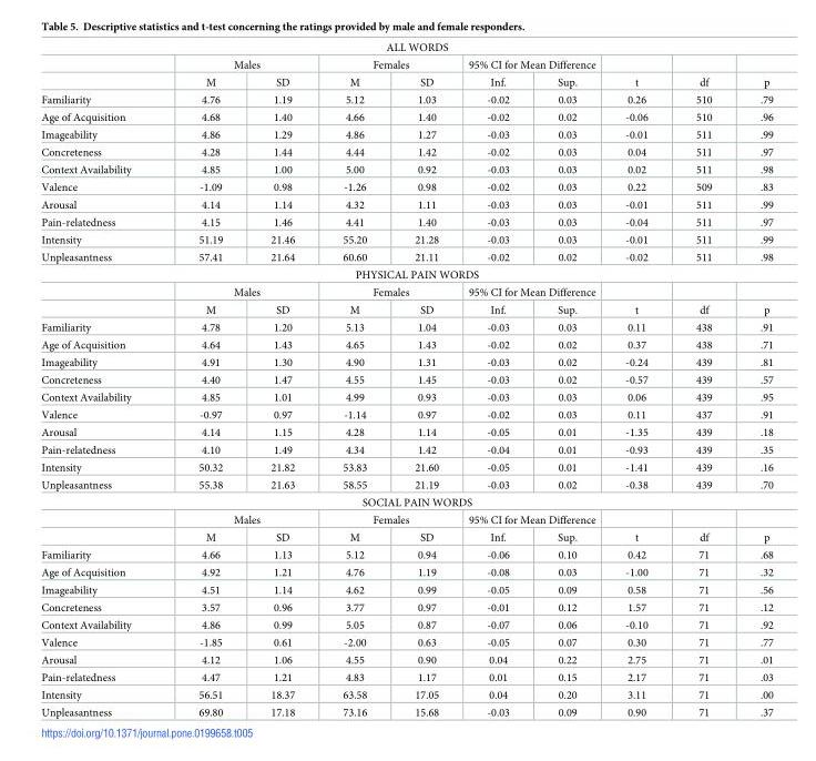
<table><tbody><tr><td colspan="10">ALL WORDS</td></tr><tr><td></td><td colspan="2">Males</td><td colspan="2">Females</td><td colspan="2">95% CI for Mean Difference</td><td></td><td></td><td></td></tr><tr><td></td><td>M</td><td>SD</td><td>M</td><td>SD</td><td>Inf.</td><td>Sup.</td><td>t</td><td>df</td><td>p</td></tr><tr><td>Familiarity</td><td>4.76</td><td>1.19</td><td>5.12</td><td>1.03</td><td>-0.02</td><td>0.03</td><td>0.26</td><td>510</td><td>.79</td></tr><tr><td>Age of Acquisition</td><td>4.68</td><td>1.40</td><td>4.66</td><td>1.40</td><td>-0.02</td><td>0.02</td><td>-0.06</td><td>510</td><td>.96</td></tr><tr><td>Imageability</td><td>4.86</td><td>1.29</td><td>4.86</td><td>1.27</td><td>-0.03</td><td>0.03</td><td>-0.01</td><td>511</td><td>.99</td></tr><tr><td>Concreteness</td><td>4.28</td><td>1.44</td><td>4.44</td><td>1.42</td><td>-0.02</td><td>0.03</td><td>0.04</td><td>511</td><td>.97</td></tr><tr><td>Context Availability</td><td>4.85</td><td>1.00</td><td>5.00</td><td>0.92</td><td>-0.03</td><td>0.03</td><td>0.02</td><td>511</td><td>.98</td></tr><tr><td>Valence</td><td>-1.09</td><td>0.98</td><td>-1.26</td><td>0.98</td><td>-0.02</td><td>0.03</td><td>0.22</td><td>509</td><td>.83</td></tr><tr><td>Arousal</td><td>4.14</td><td>1.14</td><td>4.32</td><td>1.11</td><td>-0.03</td><td>0.03</td><td>-0.01</td><td>511</td><td>.99</td></tr><tr><td>Pain-relatedness</td><td>4.15</td><td>1.46</td><td>4.41</td><td>1.40</td><td>-0.03</td><td>0.03</td><td>-0.04</td><td>511</td><td>.97</td></tr><tr><td>Intensity</td><td>51.19</td><td>21.46</td><td>55.20</td><td>21.28</td><td>-0.03</td><td>0.03</td><td>-0.01</td><td>511</td><td>.99</td></tr><tr><td>Unpleasantness</td><td>57.41</td><td>21.64</td><td>60.60</td><td>21.11</td><td>-0.02</td><td>0.02</td><td>-0.02</td><td>511</td><td>.98</td></tr><tr><td colspan="10">PHYSICAL PAIN WORDS</td></tr><tr><td></td><td colspan="2">Males</td><td colspan="2">Females</td><td colspan="2">95% CI for Mean Difference</td><td></td><td></td><td></td></tr><tr><td></td><td>M</td><td>SD</td><td>M</td><td>SD</td><td>Inf.</td><td>Sup.</td><td>t</td><td>df</td><td>p</td></tr><tr><td>Familiarity</td><td>4.78</td><td>1.20</td><td>5.13</td><td>1.04</td><td>-0.03</td><td>0.03</td><td>0.11</td><td>438</td><td>.91</td></tr><tr><td>Age of Acquisition</td><td>4.64</td><td>1.43</td><td>4.65</td><td>1.43</td><td>-0.02</td><td>0.02</td><td>0.37</td><td>438</td><td>.71</td></tr><tr><td>Imageability</td><td>4.91</td><td>1.30</td><td>4.90</td><td>1.31</td><td>-0.03</td><td>0.02</td><td>-0.24</td><td>439</td><td>.81</td></tr><tr><td>Concreteness</td><td>4.40</td><td>1.47</td><td>4.55</td><td>1.45</td><td>-0.03</td><td>0.02</td><td>-0.57</td><td>439</td><td>.57</td></tr><tr><td>Context Availability</td><td>4.85</td><td>1.01</td><td>4.99</td><td>0.93</td><td>-0.03</td><td>0.03</td><td>0.06</td><td>439</td><td>.95</td></tr><tr><td>Valence</td><td>-0.97</td><td>0.97</td><td>-1.14</td><td>0.97</td><td>-0.02</td><td>0.03</td><td>0.11</td><td>437</td><td>.91</td></tr><tr><td>Arousal</td><td>4.14</td><td>1.15</td><td>4.28</td><td>1.14</td><td>-0.05</td><td>0.01</td><td>-1.35</td><td>439</td><td>.18</td></tr><tr><td>Pain-relatedness</td><td>4.10</td><td>1.49</td><td>4.34</td><td>1.42</td><td>-0.04</td><td>0.01</td><td>-0.93</td><td>439</td><td>.35</td></tr><tr><td>Intensity</td><td>50.32</td><td>21.82</td><td>53.83</td><td>21.60</td><td>-0.05</td><td>0.01</td><td>-1.41</td><td>439</td><td>.16</td></tr><tr><td>Unpleasantness</td><td>55.38</td><td>21.63</td><td>58.55</td><td>21.19</td><td>-0.03</td><td>0.02</td><td>-0.38</td><td>439</td><td>.70</td></tr><tr><td colspan="10">SOCIAL PAIN WORDS</td></tr><tr><td></td><td colspan="2">Males</td><td colspan="2">Females</td><td colspan="2">95% CI for Mean Difference</td><td></td><td></td><td></td></tr><tr><td></td><td>M</td><td>SD</td><td>M</td><td>SD</td><td>Inf.</td><td>Sup.</td><td>t</td><td>df</td><td>p</td></tr><tr><td>Familiarity</td><td>4.66</td><td>1.13</td><td>5.12</td><td>0.94</td><td>-0.06</td><td>0.10</td><td>0.42</td><td>71</td><td>.68</td></tr><tr><td>Age of Acquisition</td><td>4.92</td><td>1.21</td><td>4.76</td><td>1.19</td><td>-0.08</td><td>0.03</td><td>-1.00</td><td>71</td><td>.32</td></tr><tr><td>Imageability</td><td>4.51</td><td>1.14</td><td>4.62</td><td>0.99</td><td>-0.05</td><td>0.09</td><td>0.58</td><td>71</td><td>.56</td></tr><tr><td>Concreteness</td><td>3.57</td><td>0.96</td><td>3.77</td><td>0.97</td><td>-0.01</td><td>0.12</td><td>1.57</td><td>71</td><td>.12</td></tr><tr><td>Context Availability</td><td>4.86</td><td>0.99</td><td>5.05</td><td>0.87</td><td>-0.07</td><td>0.06</td><td>-0.10</td><td>71</td><td>.92</td></tr><tr><td>Valence</td><td>-1.85</td><td>0.61</td><td>-2.00</td><td>0.63</td><td>-0.05</td><td>0.07</td><td>0.30</td><td>71</td><td>.77</td></tr><tr><td>Arousal</td><td>4.12</td><td>1.06</td><td>4.55</td><td>0.90</td><td>0.04</td><td>0.22</td><td>2.75</td><td>71</td><td>.01</td></tr><tr><td>Pain-relatedness</td><td>4.47</td><td>1.21</td><td>4.83</td><td>1.17</td><td>0.01</td><td>0.15</td><td>2.17</td><td>71</td><td>.03</td></tr><tr><td>Intensity</td><td>56.51</td><td>18.37</td><td>63.58</td><td>17.05</td><td>0.04</td><td>0.20</td><td>3.11</td><td>71</td><td>.00</td></tr><tr><td>Unpleasantness</td><td>69.80</td><td>17.18</td><td>73.16</td><td>15.68</td><td>-0.03</td><td>0.09</td><td>0.90</td><td>71</td><td>.37</td></tr></tbody></table>